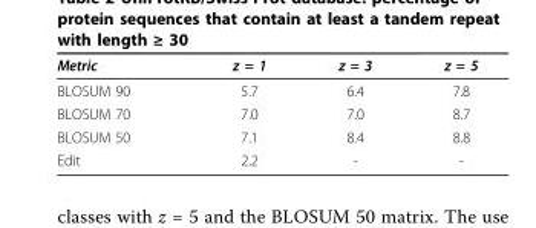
<table><thead><tr><td>Metric</td><td>z = 1</td><td>z = 3</td><td>z = 5</td></tr></thead><tbody><tr><td>BLOSUM 90</td><td>5.7</td><td>6.4</td><td>7.8</td></tr><tr><td>BLOSUM 70</td><td>7.0</td><td>7.0</td><td>8.7</td></tr><tr><td>BLOSUM 50</td><td>7.1</td><td>8.4</td><td>8.8</td></tr><tr><td>Edit</td><td>2.2</td><td>-</td><td>-</td></tr></tbody></table>